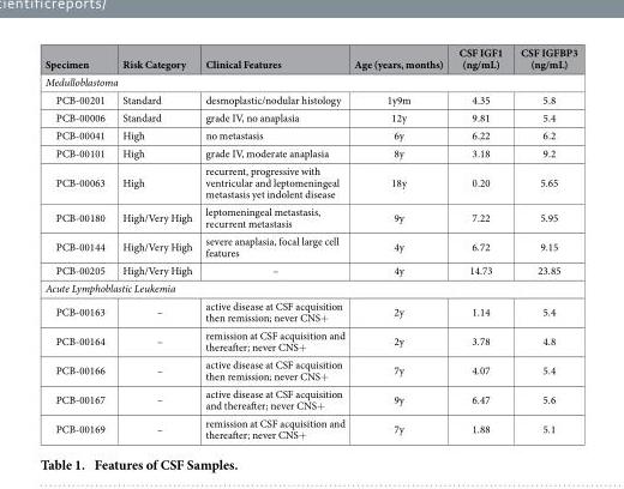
<table><thead><tr><td>Specimen</td><td>Risk Category</td><td>Clinical Features</td><td>Age (years, months)</td><td>CSF IGF1 (ng/mL)</td><td>CSF IGFBP3 (ng/mL)</td></tr></thead><tbody><tr><td colspan="6">Medulloblastoma</td></tr><tr><td>PCB-00201</td><td>Standard</td><td>desmoplastic/nodular histology</td><td>1y9m</td><td>4.35</td><td>5.8</td></tr><tr><td>PCB-00006</td><td>Standard</td><td>grade IV, no anaplasia</td><td>12y</td><td>9.81</td><td>5.4</td></tr><tr><td>PCB-00041</td><td>High</td><td>no metastasis</td><td>6y</td><td>6.22</td><td>6.2</td></tr><tr><td>PCB-00101</td><td>High</td><td>grade IV, moderate anaplasia</td><td>8y</td><td>3.18</td><td>9.2</td></tr><tr><td>PCB-00063</td><td>High</td><td>recurrent, progressive with ventricular and leptomeningeal metastasis yet indolent disease</td><td>18y</td><td>0.20</td><td>5.65</td></tr><tr><td>PCB-00180</td><td>High/Very High</td><td>leptomeningeal metastasis, recurrent metastasis</td><td>9y</td><td>7.22</td><td>5.95</td></tr><tr><td>PCB-00144</td><td>High/Very High</td><td>severe anaplasia, focal large cell features</td><td>4y</td><td>6.72</td><td>9.15</td></tr><tr><td>PCB-00205</td><td>High/Very High</td><td>–</td><td>4y</td><td>14.73</td><td>23.85</td></tr><tr><td colspan="6">Acute Lymphoblastic Leukemia</td></tr><tr><td>PCB-00163</td><td>–</td><td>active disease at CSF acquisition then remission; never CNS+</td><td>2y</td><td>1.14</td><td>5.4</td></tr><tr><td>PCB-00164</td><td>–</td><td>remission at CSF acquisition and thereafter; never CNS+</td><td>2y</td><td>3.78</td><td>4.8</td></tr><tr><td>PCB-00166</td><td>–</td><td>active disease at CSF acquisition then remission; never CNS+</td><td>7y</td><td>4.07</td><td>5.4</td></tr><tr><td>PCB-00167</td><td>–</td><td>active disease at CSF acquisition and thereafter; never CNS+</td><td>9y</td><td>6.47</td><td>5.6</td></tr><tr><td>PCB-00169</td><td>–</td><td>remission at CSF acquisition and thereafter; never CNS+</td><td>7y</td><td>1.88</td><td>5.1</td></tr></tbody></table>